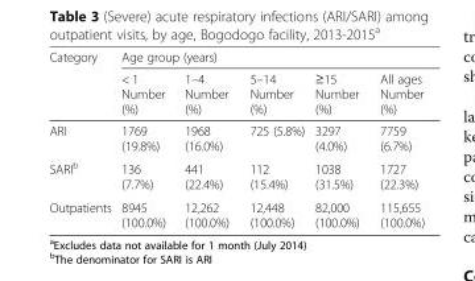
<table><thead><tr><td rowspan="2">Category</td><td colspan="5">Age group (years)</td></tr><tr><td>&lt; 1 Number (%)</td><td>1–4 Number (%)</td><td>5–14 Number (%)</td><td>≥15 Number (%)</td><td>All ages Number (%)</td></tr></thead><tbody><tr><td>ARI</td><td>1769 (19.8%)</td><td>1968 (16.0%)</td><td>725 (5.8%)</td><td>3297 (4.0%)</td><td>7759 (6.7%)</td></tr><tr><td>SARI<sup>b</sup></td><td>136 (7.7%)</td><td>441 (22.4%)</td><td>112 (15.4%)</td><td>1038 (31.5%)</td><td>1727 (22.3%)</td></tr><tr><td>Outpatients</td><td>8945 (100.0%)</td><td>12,262 (100.0%)</td><td>12,448 (100.0%)</td><td>82,000 (100.0%)</td><td>115,655 (100.0%)</td></tr></tbody></table>